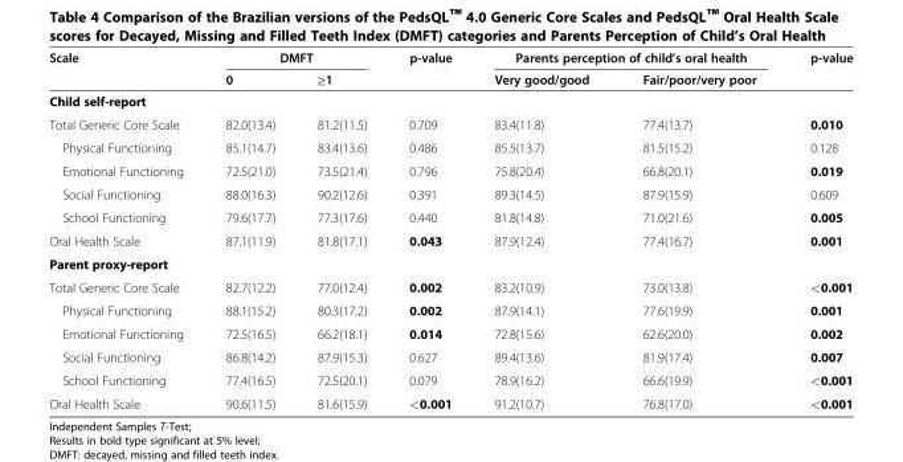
<table><thead><tr><td rowspan="2">Scale</td><td colspan="2">DMFT</td><td rowspan="2">p-value</td><td colspan="2">Parents perception of child’s oral health</td><td rowspan="2">p-value</td></tr><tr><td>0</td><td>≥1</td><td>Very good/good</td><td>Fair/poor/very poor</td></tr></thead><tbody><tr><td colspan="7">Child self-report</td></tr><tr><td>Total Generic Core Scale</td><td>82.0(13.4)</td><td>81.2(11.5)</td><td>0.709</td><td>83.4(11.8)</td><td>77.4(13.7)</td><td>0.010</td></tr><tr><td>Physical Functioning</td><td>85.1(14.7)</td><td>83.4(13.6)</td><td>0.486</td><td>85.5(13.7)</td><td>81.5(15.2)</td><td>0.128</td></tr><tr><td>Emotional Functioning</td><td>72.5(21.0)</td><td>73.5(21.4)</td><td>0.796</td><td>75.8(20.4)</td><td>66.8(20.1)</td><td>0.019</td></tr><tr><td>Social Functioning</td><td>88.0(16.3)</td><td>90.2(12.6)</td><td>0.391</td><td>89.3(14.5)</td><td>87.9(15.9)</td><td>0.609</td></tr><tr><td>School Functioning</td><td>79.6(17.7)</td><td>77.3(17.6)</td><td>0.440</td><td>81.8(14.8)</td><td>71.0(21.6)</td><td>0.005</td></tr><tr><td>Oral Health Scale</td><td>87.1(11.9)</td><td>81.8(17.1)</td><td>0.043</td><td>87.9(12.4)</td><td>77.4(16.7)</td><td>0.001</td></tr><tr><td colspan="7">Parent proxy-report</td></tr><tr><td>Total Generic Core Scale</td><td>82.7(12.2)</td><td>77.0(12.4)</td><td>0.002</td><td>83.2(10.9)</td><td>73.0(13.8)</td><td>&lt;0.001</td></tr><tr><td>Physical Functioning</td><td>88.1(15.2)</td><td>80.3(17.2)</td><td>0.002</td><td>87.9(14.1)</td><td>77.6(19.9)</td><td>0.001</td></tr><tr><td>Emotional Functioning</td><td>72.5(16.5)</td><td>66.2(18.1)</td><td>0.014</td><td>72.8(15.6)</td><td>62.6(20.0)</td><td>0.002</td></tr><tr><td>Social Functioning</td><td>86.8(14.2)</td><td>87.9(15.3)</td><td>0.627</td><td>89.4(13.6)</td><td>81.9(17.4)</td><td>0.007</td></tr><tr><td>School Functioning</td><td>77.4(16.5)</td><td>72.5(20.1)</td><td>0.079</td><td>78.9(16.2)</td><td>66.6(19.9)</td><td>&lt;0.001</td></tr><tr><td>Oral Health Scale</td><td>90.6(11.5)</td><td>81.6(15.9)</td><td>&lt;0.001</td><td>91.2(10.7)</td><td>76.8(17.0)</td><td>&lt;0.001</td></tr></tbody></table>